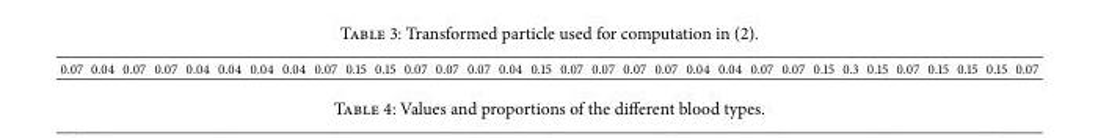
<table><tbody><tr><td>0.07</td><td>0.04</td><td>0.07</td><td>0.07</td><td>0.04</td><td>0.04</td><td>0.04</td><td>0.04</td><td>0.07</td><td>0.15</td><td>0.15</td><td>0.07</td><td>0.07</td><td>0.07</td><td>0.04</td><td>0.15</td><td>0.07</td><td>0.07</td><td>0.07</td><td>0.07</td><td>0.04</td><td>0.04</td><td>0.07</td><td>0.07</td><td>0.15</td><td>0.3</td><td>0.15</td><td>0.07</td><td>0.15</td><td>0.15</td><td>0.15</td><td>0.07</td></tr></tbody></table>